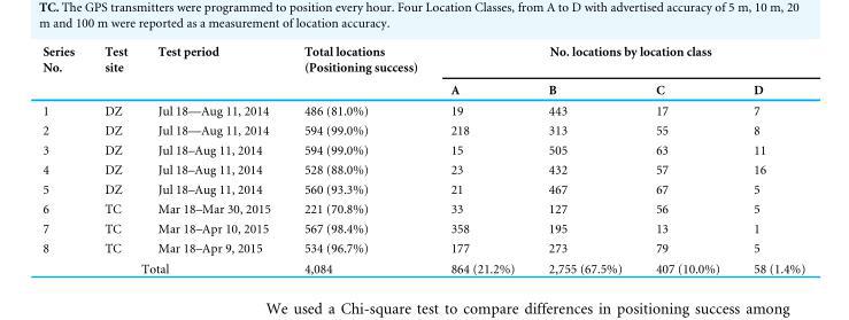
<table><thead><tr><td rowspan="2">Series No.</td><td rowspan="2">Test site</td><td rowspan="2">Test period</td><td rowspan="2">Total locations (Positioning success)</td><td colspan="4">No. locations by location class</td></tr><tr><td>A</td><td>B</td><td>C</td><td>D</td></tr></thead><tbody><tr><td>1</td><td>DZ</td><td>Jul 18—Aug 11, 2014</td><td>486 (81.0%)</td><td>19</td><td>443</td><td>17</td><td>7</td></tr><tr><td>2</td><td>DZ</td><td>Jul 18—Aug 11, 2014</td><td>594 (99.0%)</td><td>218</td><td>313</td><td>55</td><td>8</td></tr><tr><td>3</td><td>DZ</td><td>Jul 18–Aug 11, 2014</td><td>594 (99.0%)</td><td>15</td><td>505</td><td>63</td><td>11</td></tr><tr><td>4</td><td>DZ</td><td>Jul 18–Aug 11, 2014</td><td>528 (88.0%)</td><td>23</td><td>432</td><td>57</td><td>16</td></tr><tr><td>5</td><td>DZ</td><td>Jul 18–Aug 11, 2014</td><td>560 (93.3%)</td><td>21</td><td>467</td><td>67</td><td>5</td></tr><tr><td>6</td><td>TC</td><td>Mar 18–Mar 30, 2015</td><td>221 (70.8%)</td><td>33</td><td>127</td><td>56</td><td>5</td></tr><tr><td>7</td><td>TC</td><td>Mar 18–Apr 10, 2015</td><td>567 (98.4%)</td><td>358</td><td>195</td><td>13</td><td>1</td></tr><tr><td>8</td><td>TC</td><td>Mar 18–Apr 9, 2015</td><td>534 (96.7%)</td><td>177</td><td>273</td><td>79</td><td>5</td></tr><tr><td colspan="3">Total</td><td>4,084</td><td>864 (21.2%)</td><td>2,755 (67.5%)</td><td>407 (10.0%)</td><td>58 (1.4%)</td></tr></tbody></table>